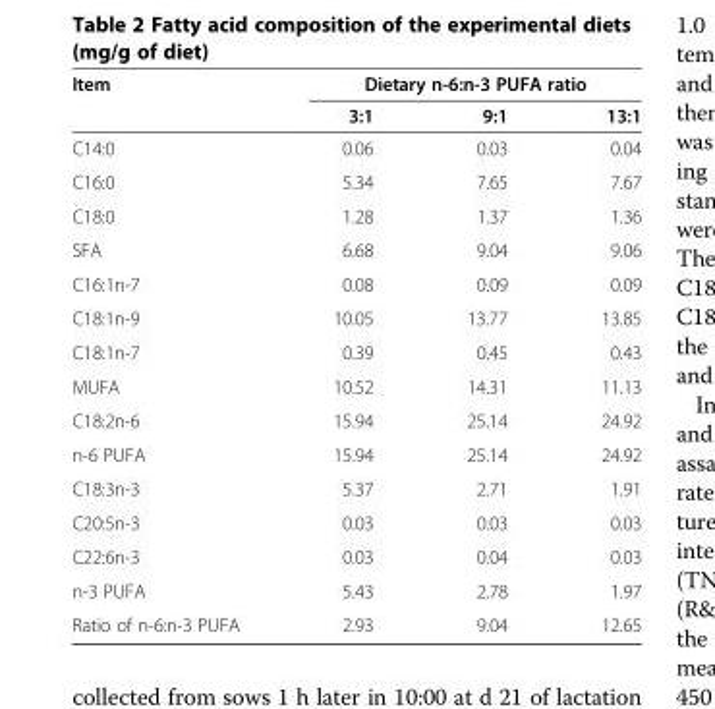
<table><thead><tr><td rowspan="2">Item</td><td colspan="3">Dietary n-6:n-3 PUFA ratio</td></tr><tr><td>3:1</td><td>9:1</td><td>13:1</td></tr></thead><tbody><tr><td>C14:0</td><td>0.06</td><td>0.03</td><td>0.04</td></tr><tr><td>C16:0</td><td>5.34</td><td>7.65</td><td>7.67</td></tr><tr><td>C18:0</td><td>1.28</td><td>1.37</td><td>1.36</td></tr><tr><td>SFA</td><td>6.68</td><td>9.04</td><td>9.06</td></tr><tr><td>C16:1n-7</td><td>0.08</td><td>0.09</td><td>0.09</td></tr><tr><td>C18:1n-9</td><td>10.05</td><td>13.77</td><td>13.85</td></tr><tr><td>C18:1n-7</td><td>0.39</td><td>0.45</td><td>0.43</td></tr><tr><td>MUFA</td><td>10.52</td><td>14.31</td><td>11.13</td></tr><tr><td>C18:2n-6</td><td>15.94</td><td>25.14</td><td>24.92</td></tr><tr><td>n-6 PUFA</td><td>15.94</td><td>25.14</td><td>24.92</td></tr><tr><td>C18:3n-3</td><td>5.37</td><td>2.71</td><td>1.91</td></tr><tr><td>C20:5n-3</td><td>0.03</td><td>0.03</td><td>0.03</td></tr><tr><td>C22:6n-3</td><td>0.03</td><td>0.04</td><td>0.03</td></tr><tr><td>n-3 PUFA</td><td>5.43</td><td>2.78</td><td>1.97</td></tr><tr><td>Ratio of n-6:n-3 PUFA</td><td>2.93</td><td>9.04</td><td>12.65</td></tr></tbody></table>